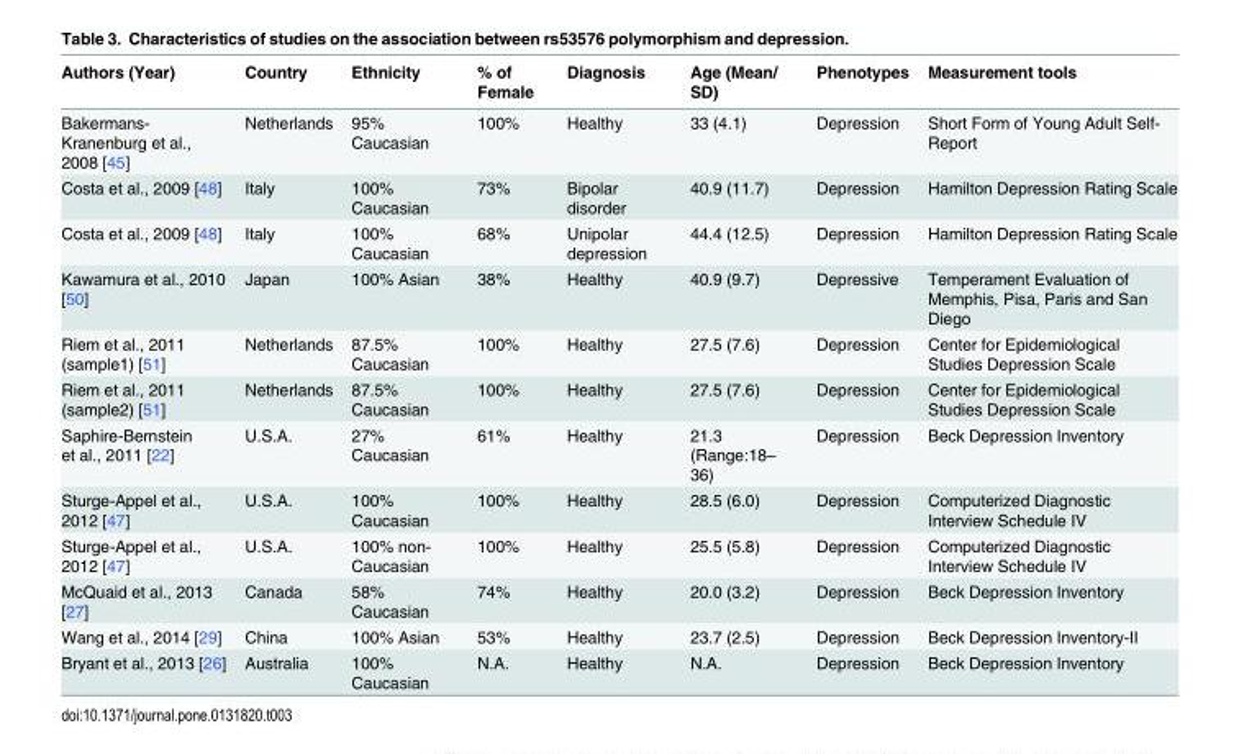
<table><thead><tr><td>Authors (Year)</td><td>Country</td><td>Ethnicity</td><td>% of Female</td><td>Diagnosis</td><td>Age (Mean/ SD)</td><td>Phenotypes</td><td>Measurement tools</td></tr></thead><tbody><tr><td>Bakermans- Kranenburg et al., 2008 [45]</td><td>Netherlands</td><td>95% Caucasian</td><td>100%</td><td>Healthy</td><td>33 (4.1)</td><td>Depression</td><td>Short Form of Young Adult Self- Report</td></tr><tr><td>Costa et al., 2009 [48]</td><td>Italy</td><td>100% Caucasian</td><td>73%</td><td>Bipolar disorder</td><td>40.9 (11.7)</td><td>Depression</td><td>Hamilton Depression Rating Scale</td></tr><tr><td>Costa et al., 2009 [48]</td><td>Italy</td><td>100% Caucasian</td><td>68%</td><td>Unipolar depression</td><td>44.4 (12.5)</td><td>Depression</td><td>Hamilton Depression Rating Scale</td></tr><tr><td>Kawamura et al., 2010 [50]</td><td>Japan</td><td>100% Asian</td><td>38%</td><td>Healthy</td><td>40.9 (9.7)</td><td>Depressive</td><td>Temperament Evaluation of Memphis, Pisa, Paris and San Diego</td></tr><tr><td>Riem et al., 2011 (sample1) [51]</td><td>Netherlands</td><td>87.5% Caucasian</td><td>100%</td><td>Healthy</td><td>27.5 (7.6)</td><td>Depression</td><td>Center for Epidemiological Studies Depression Scale</td></tr><tr><td>Riem et al., 2011 (sample2) [51]</td><td>Netherlands</td><td>87.5% Caucasian</td><td>100%</td><td>Healthy</td><td>27.5 (7.6)</td><td>Depression</td><td>Center for Epidemiological Studies Depression Scale</td></tr><tr><td>Saphire-Bernstein et al., 2011 [22]</td><td>U.S.A.</td><td>27% Caucasian</td><td>61%</td><td>Healthy</td><td>21.3 (Range:18– 36)</td><td>Depression</td><td>Beck Depression Inventory</td></tr><tr><td>Sturge-Appel et al., 2012 [47]</td><td>U.S.A.</td><td>100% Caucasian</td><td>100%</td><td>Healthy</td><td>28.5 (6.0)</td><td>Depression</td><td>Computerized Diagnostic Interview Schedule IV</td></tr><tr><td>Sturge-Appel et al., 2012 [47]</td><td>U.S.A.</td><td>100% non- Caucasian</td><td>100%</td><td>Healthy</td><td>25.5 (5.8)</td><td>Depression</td><td>Computerized Diagnostic Interview Schedule IV</td></tr><tr><td>McQuaid et al., 2013 [27]</td><td>Canada</td><td>58% Caucasian</td><td>74%</td><td>Healthy</td><td>20.0 (3.2)</td><td>Depression</td><td>Beck Depression Inventory</td></tr><tr><td>Wang et al., 2014 [29]</td><td>China</td><td>100% Asian</td><td>53%</td><td>Healthy</td><td>23.7 (2.5)</td><td>Depression</td><td>Beck Depression Inventory-II</td></tr><tr><td>Bryant et al., 2013 [26]</td><td>Australia</td><td>100% Caucasian</td><td>N.A.</td><td>Healthy</td><td>N.A.</td><td>Depression</td><td>Beck Depression Inventory</td></tr></tbody></table>